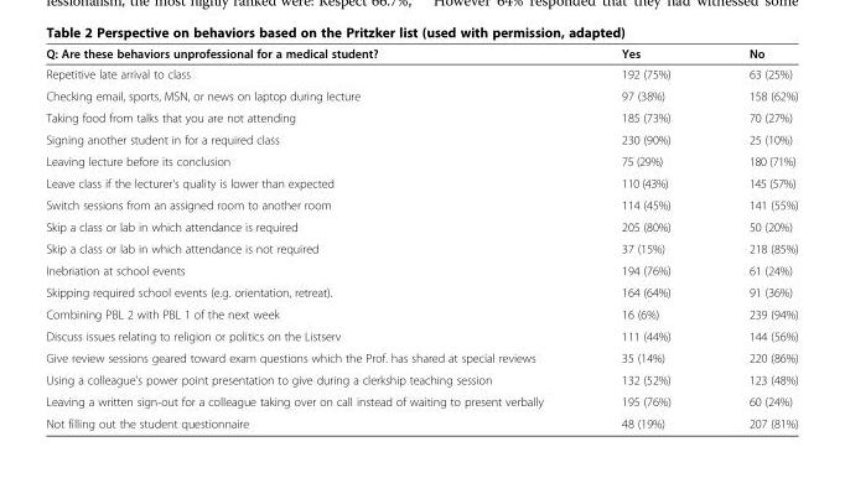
<table><thead><tr><td>Q: Are these behaviors unprofessional for a medical student?</td><td>Yes</td><td>No</td></tr></thead><tbody><tr><td>Repetitive late arrival to class</td><td>192 (75%)</td><td>63 (25%)</td></tr><tr><td>Checking email, sports, MSN, or news on laptop during lecture</td><td>97 (38%)</td><td>158 (62%)</td></tr><tr><td>Taking food from talks that you are not attending</td><td>185 (73%)</td><td>70 (27%)</td></tr><tr><td>Signing another student in for a required class</td><td>230 (90%)</td><td>25 (10%)</td></tr><tr><td>Leaving lecture before its conclusion</td><td>75 (29%)</td><td>180 (71%)</td></tr><tr><td>Leave class if the lecturer&#x27;s quality is lower than expected</td><td>110 (43%)</td><td>145 (57%)</td></tr><tr><td>Switch sessions from an assigned room to another room</td><td>114 (45%)</td><td>141 (55%)</td></tr><tr><td>Skip a class or lab in which attendance is required</td><td>205 (80%)</td><td>50 (20%)</td></tr><tr><td>Skip a class or lab in which attendance is not required</td><td>37 (15%)</td><td>218 (85%)</td></tr><tr><td>Inebriation at school events</td><td>194 (76%)</td><td>61 (24%)</td></tr><tr><td>Skipping required school events (e.g. orientation, retreat).</td><td>164 (64%)</td><td>91 (36%)</td></tr><tr><td>Combining PBL 2 with PBL 1 of the next week</td><td>16 (6%)</td><td>239 (94%)</td></tr><tr><td>Discuss issues relating to religion or politics on the Listserv</td><td>111 (44%)</td><td>144 (56%)</td></tr><tr><td>Give review sessions geared toward exam questions which the Prof. has shared at special reviews</td><td>35 (14%)</td><td>220 (86%)</td></tr><tr><td>Using a colleague&#x27;s power point presentation to give during a clerkship teaching session</td><td>132 (52%)</td><td>123 (48%)</td></tr><tr><td>Leaving a written sign-out for a colleague taking over on call instead of waiting to present verbally</td><td>195 (76%)</td><td>60 (24%)</td></tr><tr><td>Not filling out the student questionnaire</td><td>48 (19%)</td><td>207 (81%)</td></tr></tbody></table>